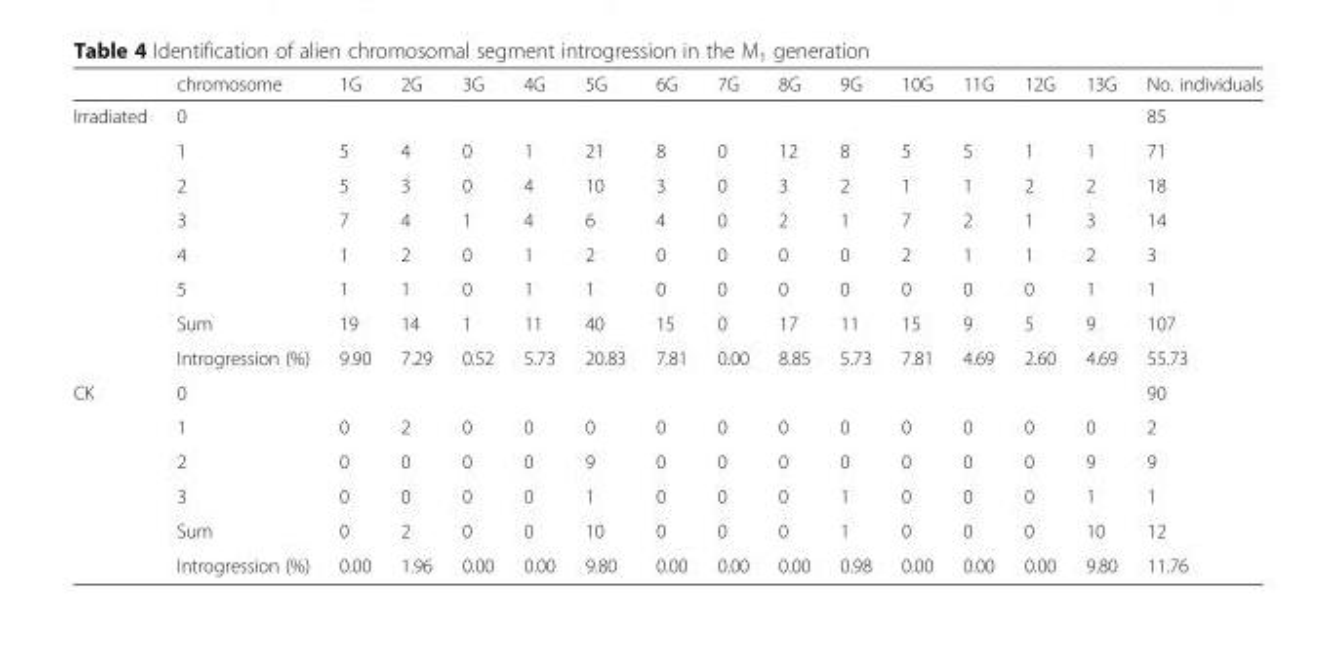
<table><thead><tr><td></td><td>chromosome</td><td>1G</td><td>2G</td><td>3G</td><td>4G</td><td>5G</td><td>6G</td><td>7G</td><td>8G</td><td>9G</td><td>10G</td><td>11G</td><td>12G</td><td>13G</td><td>No. individuals</td></tr></thead><tbody><tr><td rowspan="8">Irradiated</td><td>0</td><td></td><td></td><td></td><td></td><td></td><td></td><td></td><td></td><td></td><td></td><td></td><td></td><td></td><td>85</td></tr><tr><td>1</td><td>5</td><td>4</td><td>0</td><td>1</td><td>21</td><td>8</td><td>0</td><td>12</td><td>8</td><td>5</td><td>5</td><td>1</td><td>1</td><td>71</td></tr><tr><td>2</td><td>5</td><td>3</td><td>0</td><td>4</td><td>10</td><td>3</td><td>0</td><td>3</td><td>2</td><td>1</td><td>1</td><td>2</td><td>2</td><td>18</td></tr><tr><td>3</td><td>7</td><td>4</td><td>1</td><td>4</td><td>6</td><td>4</td><td>0</td><td>2</td><td>1</td><td>7</td><td>2</td><td>1</td><td>3</td><td>14</td></tr><tr><td>4</td><td>1</td><td>2</td><td>0</td><td>1</td><td>2</td><td>0</td><td>0</td><td>0</td><td>0</td><td>2</td><td>1</td><td>1</td><td>2</td><td>3</td></tr><tr><td>5</td><td>1</td><td>1</td><td>0</td><td>1</td><td>1</td><td>0</td><td>0</td><td>0</td><td>0</td><td>0</td><td>0</td><td>0</td><td>1</td><td>1</td></tr><tr><td>Sum</td><td>19</td><td>14</td><td>1</td><td>11</td><td>40</td><td>15</td><td>0</td><td>17</td><td>11</td><td>15</td><td>9</td><td>5</td><td>9</td><td>107</td></tr><tr><td>Introgression (%)</td><td>9.90</td><td>7.29</td><td>0.52</td><td>5.73</td><td>20.83</td><td>7.81</td><td>0.00</td><td>8.85</td><td>5.73</td><td>7.81</td><td>4.69</td><td>2.60</td><td>4.69</td><td>55.73</td></tr><tr><td rowspan="6">CK</td><td>0</td><td></td><td></td><td></td><td></td><td></td><td></td><td></td><td></td><td></td><td></td><td></td><td></td><td></td><td>90</td></tr><tr><td>1</td><td>0</td><td>2</td><td>0</td><td>0</td><td>0</td><td>0</td><td>0</td><td>0</td><td>0</td><td>0</td><td>0</td><td>0</td><td>0</td><td>2</td></tr><tr><td>2</td><td>0</td><td>0</td><td>0</td><td>0</td><td>9</td><td>0</td><td>0</td><td>0</td><td>0</td><td>0</td><td>0</td><td>0</td><td>9</td><td>9</td></tr><tr><td>3</td><td>0</td><td>0</td><td>0</td><td>0</td><td>1</td><td>0</td><td>0</td><td>0</td><td>1</td><td>0</td><td>0</td><td>0</td><td>1</td><td>1</td></tr><tr><td>Sum</td><td>0</td><td>2</td><td>0</td><td>0</td><td>10</td><td>0</td><td>0</td><td>0</td><td>1</td><td>0</td><td>0</td><td>0</td><td>10</td><td>12</td></tr><tr><td>Introgression (%)</td><td>0.00</td><td>1.96</td><td>0.00</td><td>0.00</td><td>9.80</td><td>0.00</td><td>0.00</td><td>0.00</td><td>0.98</td><td>0.00</td><td>0.00</td><td>0.00</td><td>9.80</td><td>11.76</td></tr></tbody></table>